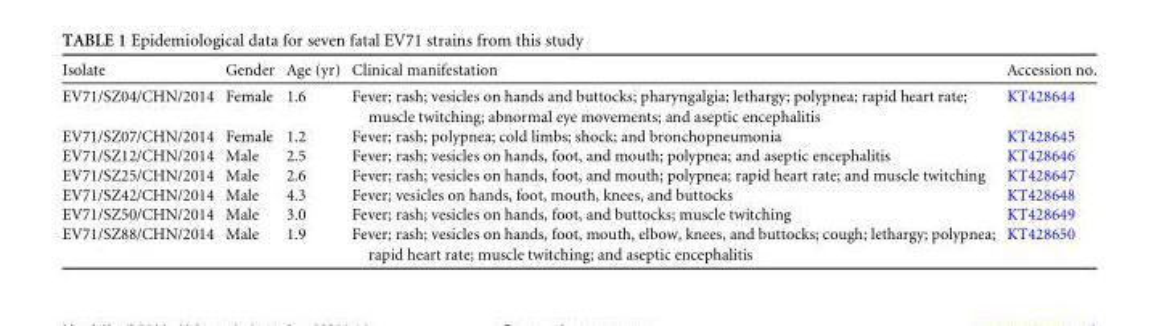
<table><thead><tr><td>Isolate</td><td>Gender</td><td>Age (yr)</td><td>Clinical manifestation</td><td>Accession no.</td></tr></thead><tbody><tr><td>EV71/SZ04/CHN/2014</td><td>Female</td><td>1.6</td><td>Fever; rash; vesicles on hands and buttocks; pharyngalgia; lethargy; polypnea; rapid heart rate; muscle twitching; abnormal eye movements; and aseptic encephalitis</td><td>KT428644</td></tr><tr><td>EV71/SZ07/CHN/2014</td><td>Female</td><td>1.2</td><td>Fever; rash; polypnea; cold limbs; shock; and bronchopneumonia</td><td>KT428645</td></tr><tr><td>EV71/SZ12/CHN/2014</td><td>Male</td><td>2.5</td><td>Fever; rash; vesicles on hands, foot, and mouth; polypnea; and aseptic encephalitis</td><td>KT428646</td></tr><tr><td>EV71/SZ25/CHN/2014</td><td>Male</td><td>2.6</td><td>Fever; rash; vesicles on hands, foot, and mouth; polypnea; rapid heart rate; and muscle twitching</td><td>KT428647</td></tr><tr><td>EV71/SZ42/CHN/2014</td><td>Male</td><td>4.3</td><td>Fever; vesicles on hands, foot, mouth, knees, and buttocks</td><td>KT428648</td></tr><tr><td>EV71/SZ50/CHN/2014</td><td>Male</td><td>3.0</td><td>Fever; rash; vesicles on hands, foot, and buttocks; muscle twitching</td><td>KT428649</td></tr><tr><td>EV71/SZ88/CHN/2014</td><td>Male</td><td>1.9</td><td>Fever; rash; vesicles on hands, foot, mouth, elbow, knees, and buttocks; cough; lethargy; polypnea; rapid heart rate; muscle twitching; and aseptic encephalitis</td><td>KT428650</td></tr></tbody></table>